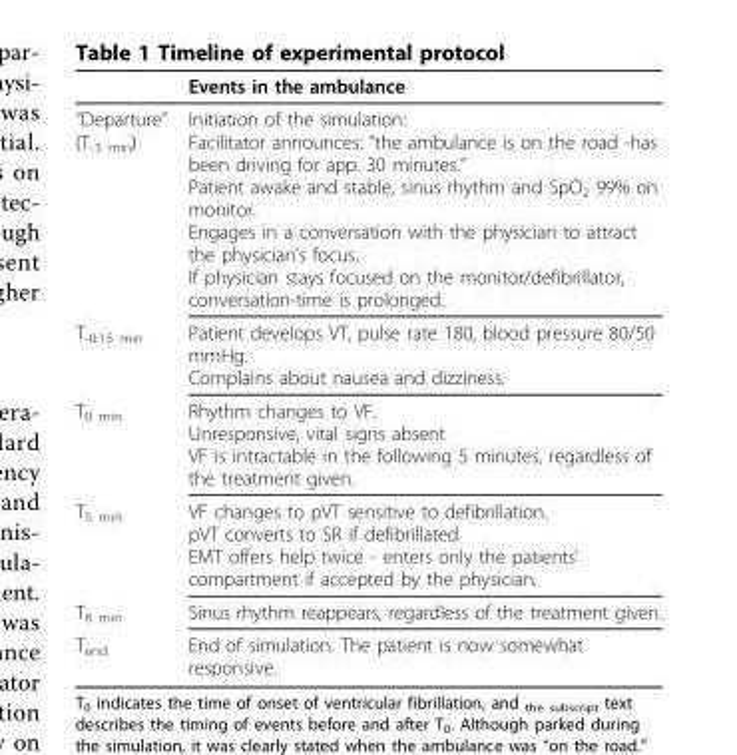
<table><thead><tr><td></td><td>Events in the ambulance</td></tr></thead><tbody><tr><td>“Departure” (T-3 min)</td><td>Initiation of the simulation: Facilitator announces: “the ambulance is on the road -has been driving for app. 30 minutes.” Patient awake and stable, sinus rhythm and SpO2 99% on monitor. Engages in a conversation with the physician to attract the physician’s focus. If physician stays focused on the monitor/defibrillator, conversation-time is prolonged.</td></tr><tr><td>T<sub>-0:15 min</sub></td><td>Patient develops VT, pulse rate 180, blood pressure 80/50 mmHg. Complains about nausea and dizziness.</td></tr><tr><td>T<sub>0 min</sub></td><td>Rhythm changes to VF. Unresponsive, vital signs absent VF is intractable in the following 5 minutes, regardless of the treatment given.</td></tr><tr><td>T<sub>5 min</sub></td><td>VF changes to pVT sensitive to defibrillation. pVT converts to SR if defibrillated EMT offers help twice - enters only the patients’ compartment if accepted by the physician.</td></tr><tr><td>T<sub>8 min</sub></td><td>Sinus rhythm reappears, regardless of the treatment given.</td></tr><tr><td>T<sub>end</sub></td><td>End of simulation. The patient is now somewhat responsive.</td></tr></tbody></table>